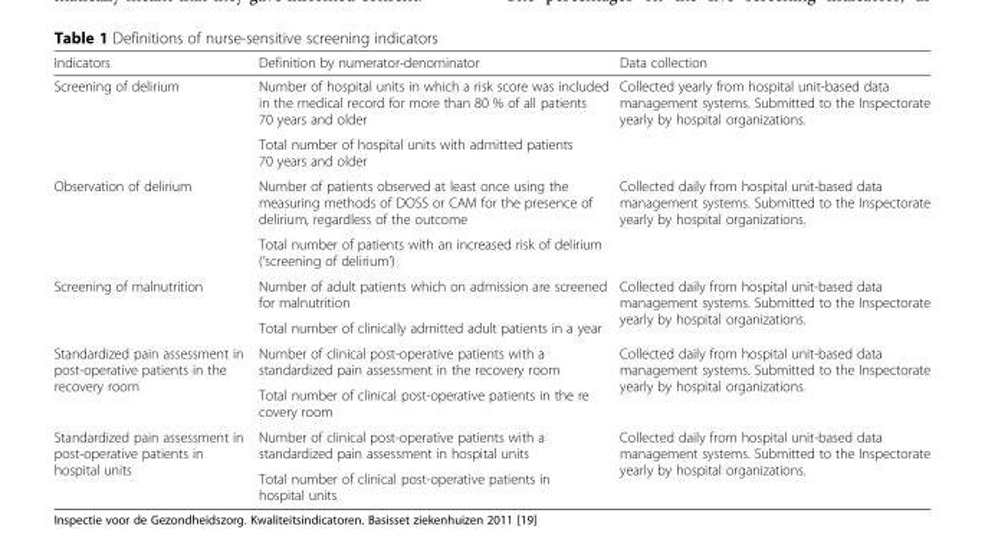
<table><thead><tr><td>Indicators</td><td>Definition by numerator-denominator</td><td>Data collection</td></tr></thead><tbody><tr><td rowspan="2">Screening of delirium</td><td>Number of hospital units in which a risk score was included in the medical record for more than 80 % of all patients 70 years and older</td><td rowspan="2">Collected yearly from hospital unit-based data management systems. Submitted to the Inspectorate yearly by hospital organizations.</td></tr><tr><td>Total number of hospital units with admitted patients 70 years and older</td></tr><tr><td rowspan="2">Observation of delirium</td><td>Number of patients observed at least once using the measuring methods of DOSS or CAM for the presence of delirium, regardless of the outcome</td><td rowspan="2">Collected daily from hospital unit-based data management systems. Submitted to the Inspectorate yearly by hospital organizations.</td></tr><tr><td>Total number of patients with an increased risk of delirium (‘screening of delirium’)</td></tr><tr><td rowspan="2">Screening of malnutrition</td><td>Number of adult patients which on admission are screened for malnutrition</td><td rowspan="2">Collected daily from hospital unit-based data management systems. Submitted to the Inspectorate yearly by hospital organizations.</td></tr><tr><td>Total number of clinically admitted adult patients in a year</td></tr><tr><td rowspan="2">Standardized pain assessment in post-operative patients in the recovery room</td><td>Number of clinical post-operative patients with a standardized pain assessment in the recovery room</td><td rowspan="2">Collected daily from hospital unit-based data management systems. Submitted to the Inspectorate yearly by hospital organizations.</td></tr><tr><td>Total number of clinical post-operative patients in the re covery room</td></tr><tr><td rowspan="2">Standardized pain assessment in post-operative patients in hospital units</td><td>Number of clinical post-operative patients with a standardized pain assessment in hospital units</td><td rowspan="2">Collected daily from hospital unit-based data management systems. Submitted to the Inspectorate yearly by hospital organizations.</td></tr><tr><td>Total number of clinical post-operative patients in hospital units</td></tr></tbody></table>